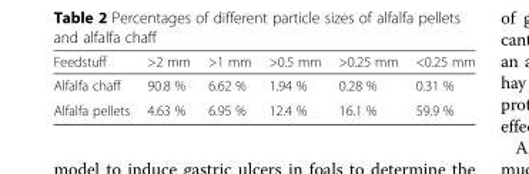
<table><thead><tr><td>Feedstuff</td><td>&gt;2 mm</td><td>&gt;1 mm</td><td>&gt;0.5 mm</td><td>&gt;0.25 mm</td><td>&lt;0.25 mm</td></tr></thead><tbody><tr><td>Alfalfa chaff</td><td>90.8 %</td><td>6.62 %</td><td>1.94 %</td><td>0.28 %</td><td>0.31 %</td></tr><tr><td>Alfalfa pellets</td><td>4.63 %</td><td>6.95 %</td><td>12.4 %</td><td>16.1 %</td><td>59.9 %</td></tr></tbody></table>